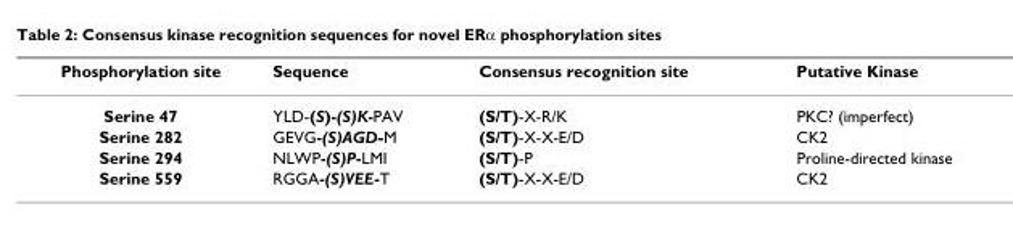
<table><thead><tr><td>Phosphorylation site</td><td>Sequence</td><td>Consensus recognition site</td><td>Putative Kinase</td></tr></thead><tbody><tr><td>Serine 47</td><td>YLD-(S)-(S)K-PAV</td><td>(S/T)-X-R/K</td><td>PKC? (imperfect)</td></tr><tr><td>Serine 282</td><td>GEVG-(S)AGD-M</td><td>(S/T)-X-X-E/D</td><td>CK2</td></tr><tr><td>Serine 294</td><td>NLWP-(S)P-LMI</td><td>(S/T)-P</td><td>Proline-directed kinase</td></tr><tr><td>Serine 559</td><td>RGGA-(S)VEE-T</td><td>(S/T)-X-X-E/D</td><td>CK2</td></tr></tbody></table>